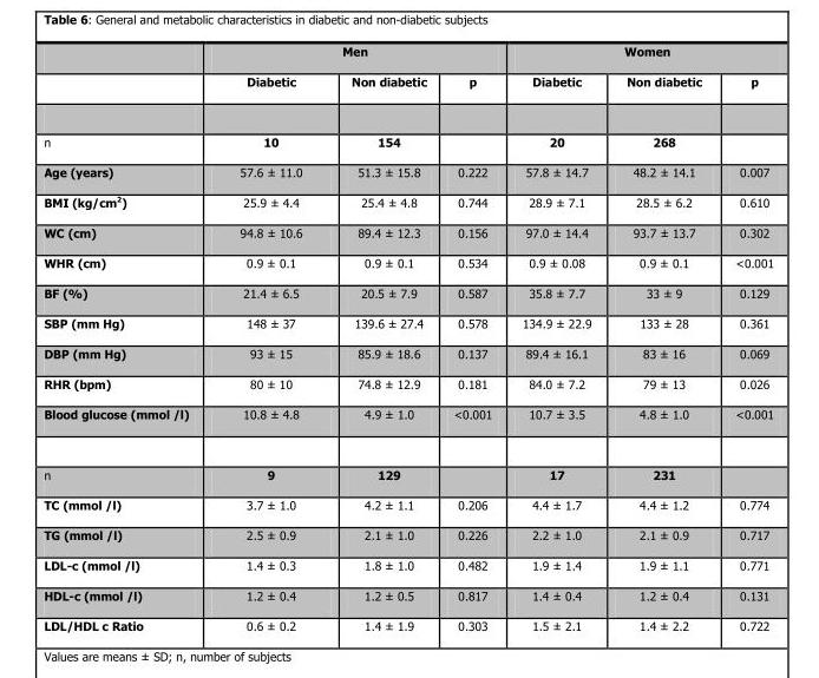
<table><thead><tr><td rowspan="2"></td><td colspan="3">Men</td><td colspan="3">Women</td></tr><tr><td>Diabetic</td><td>Non diabetic</td><td>p</td><td>Diabetic</td><td>Non diabetic</td><td>p</td></tr></thead><tbody><tr><td>n</td><td>10</td><td>154</td><td></td><td>20</td><td>268</td><td></td></tr><tr><td>Age (years)</td><td>57.6 ± 11.0</td><td>51.3 ± 15.8</td><td>0.222</td><td>57.8 ± 14.7</td><td>48.2 ± 14.1</td><td>0.007</td></tr><tr><td>BMI (kg/cm<sup>2</sup>)</td><td>25.9 ± 4.4</td><td>25.4 ± 4.8</td><td>0.744</td><td>28.9 ± 7.1</td><td>28.5 ± 6.2</td><td>0.610</td></tr><tr><td>WC (cm)</td><td>94.8 ± 10.6</td><td>89.4 ± 12.3</td><td>0.156</td><td>97.0 ± 14.4</td><td>93.7 ± 13.7</td><td>0.302</td></tr><tr><td>WHR (cm)</td><td>0.9 ± 0.1</td><td>0.9 ± 0.1</td><td>0.534</td><td>0.9 ± 0.08</td><td>0.9 ± 0.1</td><td>&lt;0.001</td></tr><tr><td>BF (%)</td><td>21.4 ± 6.5</td><td>20.5 ± 7.9</td><td>0.587</td><td>35.8 ± 7.7</td><td>33 ± 9</td><td>0.129</td></tr><tr><td>SBP (mm Hg)</td><td>148 ± 37</td><td>139.6 ± 27.4</td><td>0.578</td><td>134.9 ± 22.9</td><td>133 ± 28</td><td>0.361</td></tr><tr><td>DBP (mm Hg)</td><td>93 ± 15</td><td>85.9 ± 18.6</td><td>0.137</td><td>89.4 ± 16.1</td><td>83 ± 16</td><td>0.069</td></tr><tr><td>RHR (bpm)</td><td>80 ± 10</td><td>74.8 ± 12.9</td><td>0.181</td><td>84.0 ± 7.2</td><td>79 ± 13</td><td>0.026</td></tr><tr><td>Blood glucose (mmol /l)</td><td>10.8 ± 4.8</td><td>4.9 ± 1.0</td><td>&lt;0.001</td><td>10.7 ± 3.5</td><td>4.8 ± 1.0</td><td>&lt;0.001</td></tr><tr><td>n</td><td>9</td><td>129</td><td></td><td>17</td><td>231</td><td></td></tr><tr><td>TC (mmol /l)</td><td>3.7 ± 1.0</td><td>4.2 ± 1.1</td><td>0.206</td><td>4.4 ± 1.7</td><td>4.4 ± 1.2</td><td>0.774</td></tr><tr><td>TG (mmol /l)</td><td>2.5 ± 0.9</td><td>2.1 ± 1.0</td><td>0.226</td><td>2.2 ± 1.0</td><td>2.1 ± 0.9</td><td>0.717</td></tr><tr><td>LDL-c (mmol /l)</td><td>1.4 ± 0.3</td><td>1.8 ± 1.0</td><td>0.482</td><td>1.9 ± 1.4</td><td>1.9 ± 1.1</td><td>0.771</td></tr><tr><td>HDL-c (mmol /l)</td><td>1.2 ± 0.4</td><td>1.2 ± 0.5</td><td>0.817</td><td>1.4 ± 0.4</td><td>1.2 ± 0.4</td><td>0.131</td></tr><tr><td>LDL/HDL c Ratio</td><td>0.6 ± 0.2</td><td>1.4 ± 1.9</td><td>0.303</td><td>1.5 ± 2.1</td><td>1.4 ± 2.2</td><td>0.722</td></tr></tbody></table>